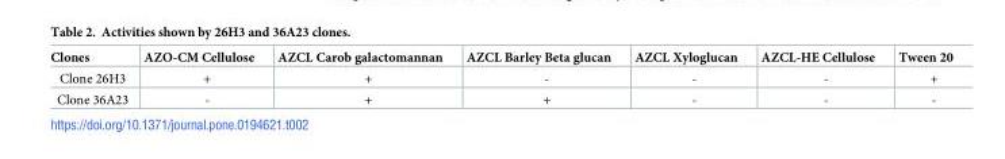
<table><thead><tr><td>Clones</td><td>AZO-CM Cellulose</td><td>AZCL Carob galactomannan</td><td>AZCL Barley Beta glucan</td><td>AZCL Xyloglucan</td><td>AZCL-HE Cellulose</td><td>Tween 20</td></tr></thead><tbody><tr><td>Clone 26H3</td><td>+</td><td>+</td><td>-</td><td>-</td><td>-</td><td>+</td></tr><tr><td>Clone 36A23</td><td>-</td><td>+</td><td>+</td><td>-</td><td>-</td><td>-</td></tr></tbody></table>